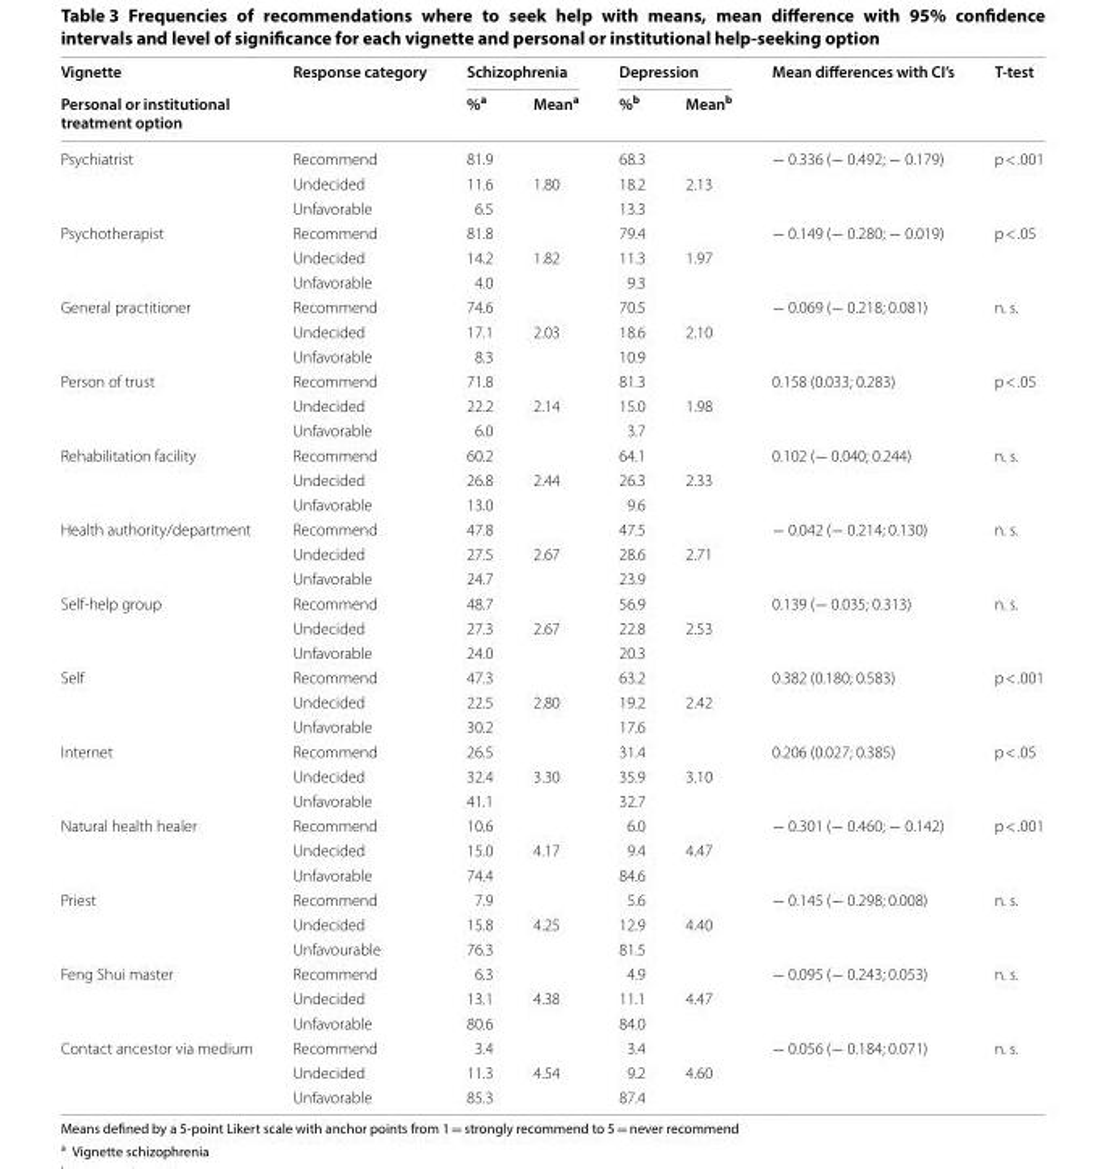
<table><thead><tr><td rowspan="2">Vignette Personal or institutional treatment option</td><td rowspan="2">Response category</td><td colspan="2">Schizophrenia</td><td colspan="2">Depression</td><td rowspan="2">Mean differences with CI’s</td><td rowspan="2">T‑test</td></tr><tr><td>%<sup>a</sup></td><td>Mean<sup>a</sup></td><td>%<sup>b</sup></td><td>Mean<sup>b</sup></td></tr></thead><tbody><tr><td rowspan="3">Psychiatrist</td><td>Recommend</td><td>81.9</td><td></td><td>68.3</td><td></td><td rowspan="3">− 0.336 (− 0.492; − 0.179)</td><td rowspan="3">p &lt; .001</td></tr><tr><td>Undecided</td><td>11.6</td><td>1.80</td><td>18.2</td><td>2.13</td></tr><tr><td>Unfavorable</td><td>6.5</td><td></td><td>13.3</td><td></td></tr><tr><td rowspan="3">Psychotherapist</td><td>Recommend</td><td>81.8</td><td></td><td>79.4</td><td></td><td rowspan="3">− 0.149 (− 0.280; − 0.019)</td><td rowspan="3">p &lt; .05</td></tr><tr><td>Undecided</td><td>14.2</td><td>1.82</td><td>11.3</td><td>1.97</td></tr><tr><td>Unfavorable</td><td>4.0</td><td></td><td>9.3</td><td></td></tr><tr><td rowspan="3">General practitioner</td><td>Recommend</td><td>74.6</td><td></td><td>70.5</td><td></td><td rowspan="3">− 0.069 (− 0.218; 0.081)</td><td rowspan="3">n. s.</td></tr><tr><td>Undecided</td><td>17.1</td><td>2.03</td><td>18.6</td><td>2.10</td></tr><tr><td>Unfavorable</td><td>8.3</td><td></td><td>10.9</td><td></td></tr><tr><td rowspan="3">Person of trust</td><td>Recommend</td><td>71.8</td><td></td><td>81.3</td><td></td><td rowspan="3">0.158 (0.033; 0.283)</td><td rowspan="3">p &lt; .05</td></tr><tr><td>Undecided</td><td>22.2</td><td>2.14</td><td>15.0</td><td>1.98</td></tr><tr><td>Unfavorable</td><td>6.0</td><td></td><td>3.7</td><td></td></tr><tr><td rowspan="3">Rehabilitation facility</td><td>Recommend</td><td>60.2</td><td></td><td>64.1</td><td></td><td rowspan="3">0.102 (− 0.040; 0.244)</td><td rowspan="3">n. s.</td></tr><tr><td>Undecided</td><td>26.8</td><td>2.44</td><td>26.3</td><td>2.33</td></tr><tr><td>Unfavorable</td><td>13.0</td><td></td><td>9.6</td><td></td></tr><tr><td rowspan="3">Health authority/department</td><td>Recommend</td><td>47.8</td><td></td><td>47.5</td><td></td><td rowspan="3">− 0.042 (− 0.214; 0.130)</td><td rowspan="3">n. s.</td></tr><tr><td>Undecided</td><td>27.5</td><td>2.67</td><td>28.6</td><td>2.71</td></tr><tr><td>Unfavorable</td><td>24.7</td><td></td><td>23.9</td><td></td></tr><tr><td rowspan="3">Self-help group</td><td>Recommend</td><td>48.7</td><td></td><td>56.9</td><td></td><td rowspan="3">0.139 (− 0.035; 0.313)</td><td rowspan="3">n. s.</td></tr><tr><td>Undecided</td><td>27.3</td><td>2.67</td><td>22.8</td><td>2.53</td></tr><tr><td>Unfavorable</td><td>24.0</td><td></td><td>20.3</td><td></td></tr><tr><td rowspan="3">Self</td><td>Recommend</td><td>47.3</td><td></td><td>63.2</td><td></td><td rowspan="3">0.382 (0.180; 0.583)</td><td rowspan="3">p &lt; .001</td></tr><tr><td>Undecided</td><td>22.5</td><td>2.80</td><td>19.2</td><td>2.42</td></tr><tr><td>Unfavorable</td><td>30.2</td><td></td><td>17.6</td><td></td></tr><tr><td rowspan="3">Internet</td><td>Recommend</td><td>26.5</td><td></td><td>31.4</td><td></td><td rowspan="3">0.206 (0.027; 0.385)</td><td rowspan="3">p &lt; .05</td></tr><tr><td>Undecided</td><td>32.4</td><td>3.30</td><td>35.9</td><td>3.10</td></tr><tr><td>Unfavorable</td><td>41.1</td><td></td><td>32.7</td><td></td></tr><tr><td rowspan="3">Natural health healer</td><td>Recommend</td><td>10.6</td><td></td><td>6.0</td><td></td><td rowspan="3">− 0.301 (− 0.460; − 0.142)</td><td rowspan="3">p &lt; .001</td></tr><tr><td>Undecided</td><td>15.0</td><td>4.17</td><td>9.4</td><td>4.47</td></tr><tr><td>Unfavorable</td><td>74.4</td><td></td><td>84.6</td><td></td></tr><tr><td rowspan="3">Priest</td><td>Recommend</td><td>7.9</td><td></td><td>5.6</td><td></td><td rowspan="3">− 0.145 (− 0.298; 0.008)</td><td rowspan="3">n. s.</td></tr><tr><td>Undecided</td><td>15.8</td><td>4.25</td><td>12.9</td><td>4.40</td></tr><tr><td>Unfavourable</td><td>76.3</td><td></td><td>81.5</td><td></td></tr><tr><td rowspan="3">Feng Shui master</td><td>Recommend</td><td>6.3</td><td></td><td>4.9</td><td></td><td rowspan="3">− 0.095 (− 0.243; 0.053)</td><td rowspan="3">n. s.</td></tr><tr><td>Undecided</td><td>13.1</td><td>4.38</td><td>11.1</td><td>4.47</td></tr><tr><td>Unfavorable</td><td>80.6</td><td></td><td>84.0</td><td></td></tr><tr><td rowspan="3">Contact ancestor via medium</td><td>Recommend</td><td>3.4</td><td></td><td>3.4</td><td></td><td rowspan="3">− 0.056 (− 0.184; 0.071)</td><td rowspan="3">n. s.</td></tr><tr><td>Undecided</td><td>11.3</td><td>4.54</td><td>9.2</td><td>4.60</td></tr><tr><td>Unfavorable</td><td>85.3</td><td></td><td>87.4</td><td></td></tr></tbody></table>